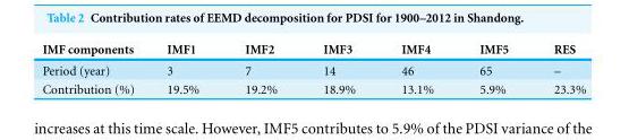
<table><thead><tr><td>IMF components</td><td>IMF1</td><td>IMF2</td><td>IMF3</td><td>IMF4</td><td>IMF5</td><td>RES</td></tr></thead><tbody><tr><td>Period (year)</td><td>3</td><td>7</td><td>14</td><td>46</td><td>65</td><td>–</td></tr><tr><td>Contribution (%)</td><td>19.5%</td><td>19.2%</td><td>18.9%</td><td>13.1%</td><td>5.9%</td><td>23.3%</td></tr></tbody></table>